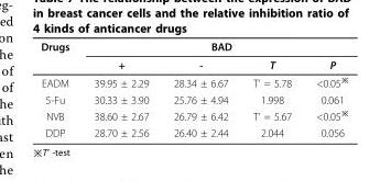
<table><thead><tr><td rowspan="2">Drugs</td><td colspan="4">BAD</td></tr><tr><td>+</td><td>-</td><td>T</td><td>P</td></tr></thead><tbody><tr><td>EADM</td><td>39.95 ± 2.29</td><td>28.34 ± 6.67</td><td>T’ = 5.78</td><td>&lt;0.05<sup>※</sup></td></tr><tr><td>5-Fu</td><td>30.33 ± 3.90</td><td>25.76 ± 4.94</td><td>1.998</td><td>0.061</td></tr><tr><td>NVB</td><td>38.60 ± 2.67</td><td>26.79 ± 6.42</td><td>T’ = 5.67</td><td>&lt;0.05<sup>※</sup></td></tr><tr><td>DDP</td><td>28.70 ± 2.56</td><td>26.40 ± 2.44</td><td>2.044</td><td>0.056</td></tr></tbody></table>